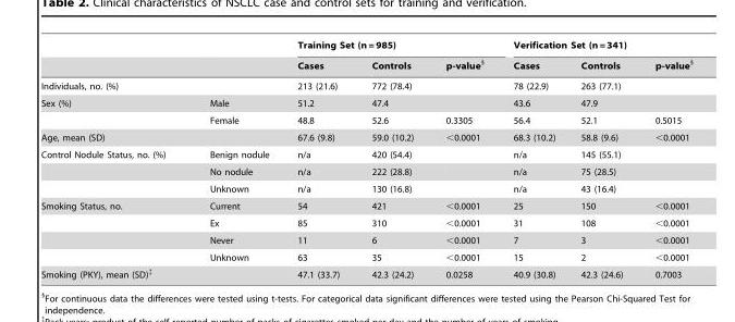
<table><thead><tr><td rowspan="2"></td><td rowspan="2"></td><td colspan="3">Training Set (n = 985)</td><td colspan="3">Verification Set (n = 341)</td></tr><tr><td>Cases</td><td>Controls</td><td>p-value§</td><td>Cases</td><td>Controls</td><td>p-value§</td></tr></thead><tbody><tr><td>Individuals, no. (%)</td><td></td><td>213 (21.6)</td><td>772 (78.4)</td><td></td><td>78 (22.9)</td><td>263 (77.1)</td><td></td></tr><tr><td rowspan="2">Sex (%)</td><td>Male</td><td>51.2</td><td>47.4</td><td></td><td>43.6</td><td>47.9</td><td></td></tr><tr><td>Female</td><td>48.8</td><td>52.6</td><td>0.3305</td><td>56.4</td><td>52.1</td><td>0.5015</td></tr><tr><td>Age, mean (SD)</td><td></td><td>67.6 (9.8)</td><td>59.0 (10.2)</td><td>&lt;0.0001</td><td>68.3 (10.2)</td><td>58.8 (9.6)</td><td>&lt;0.0001</td></tr><tr><td rowspan="3">Control Nodule Status, no. (%)</td><td>Benign nodule</td><td>n/a</td><td>420 (54.4)</td><td></td><td>n/a</td><td>145 (55.1)</td><td></td></tr><tr><td>No nodule</td><td>n/a</td><td>222 (28.8)</td><td></td><td>n/a</td><td>75 (28.5)</td><td></td></tr><tr><td>Unknown</td><td>n/a</td><td>130 (16.8)</td><td></td><td>n/a</td><td>43 (16.4)</td><td></td></tr><tr><td rowspan="4">Smoking Status, no.</td><td>Current</td><td>54</td><td>421</td><td>&lt;0.0001</td><td>25</td><td>150</td><td>&lt;0.0001</td></tr><tr><td>Ex</td><td>85</td><td>310</td><td>&lt;0.0001</td><td>31</td><td>108</td><td>&lt;0.0001</td></tr><tr><td>Never</td><td>11</td><td>6</td><td>&lt;0.0001</td><td>7</td><td>3</td><td>&lt;0.0001</td></tr><tr><td>Unknown</td><td>63</td><td>35</td><td>&lt;0.0001</td><td>15</td><td>2</td><td>&lt;0.0001</td></tr><tr><td>Smoking (PKY), mean (SD)‡</td><td></td><td>47.1 (33.7)</td><td>42.3 (24.2)</td><td>0.0258</td><td>40.9 (30.8)</td><td>42.3 (24.6)</td><td>0.7003</td></tr></tbody></table>